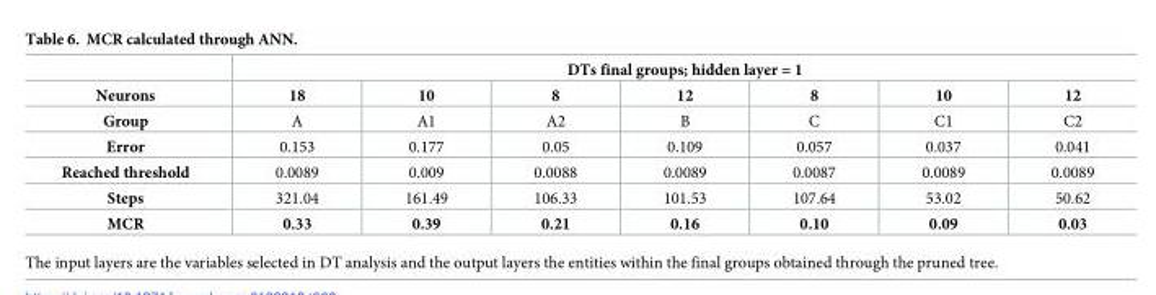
<table><thead><tr><td rowspan="2">Neurons</td><td colspan="7">DTs final groups; hidden layer = 1</td></tr><tr><td>18</td><td>10</td><td>8</td><td>12</td><td>8</td><td>10</td><td>12</td></tr></thead><tbody><tr><td>Group</td><td>A</td><td>A1</td><td>A2</td><td>B</td><td>C</td><td>C1</td><td>C2</td></tr><tr><td>Error</td><td>0.153</td><td>0.177</td><td>0.05</td><td>0.109</td><td>0.057</td><td>0.037</td><td>0.041</td></tr><tr><td>Reached threshold</td><td>0.0089</td><td>0.009</td><td>0.0088</td><td>0.0089</td><td>0.0087</td><td>0.0089</td><td>0.0089</td></tr><tr><td>Steps</td><td>321.04</td><td>161.49</td><td>106.33</td><td>101.53</td><td>107.64</td><td>53.02</td><td>50.62</td></tr><tr><td>MCR</td><td>0.33</td><td>0.39</td><td>0.21</td><td>0.16</td><td>0.10</td><td>0.09</td><td>0.03</td></tr></tbody></table>